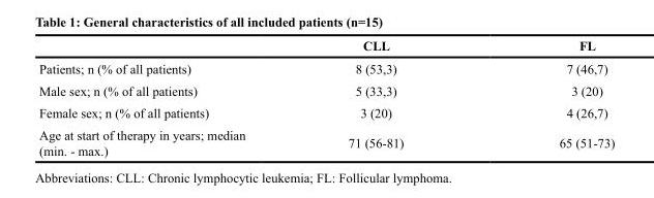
<table><thead><tr><td></td><td>CLL</td><td>FL</td></tr></thead><tbody><tr><td>Patients; n (% of all patients)</td><td>8 (53,3)</td><td>7 (46,7)</td></tr><tr><td>Male sex; n (% of all patients)</td><td>5 (33,3)</td><td>3 (20)</td></tr><tr><td>Female sex; n (% of all patients)</td><td>3 (20)</td><td>4 (26,7)</td></tr><tr><td>Age at start of therapy in years; median (min. - max.)</td><td>71 (56-81)</td><td>65 (51-73)</td></tr></tbody></table>